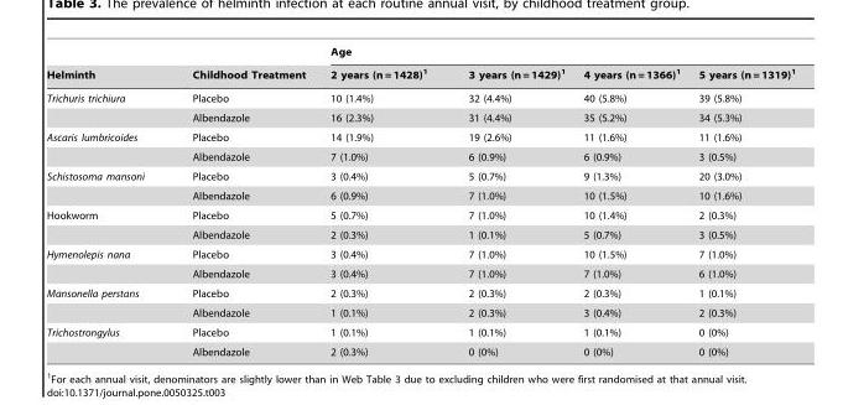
<table><thead><tr><td rowspan="2">Helminth</td><td rowspan="2">Childhood Treatment</td><td colspan="4">Age</td></tr><tr><td>2 years (n = 1428)<sup>1</sup></td><td>3 years (n = 1429)<sup>1</sup></td><td>4 years (n = 1366)<sup>1</sup></td><td>5 years (n = 1319)<sup>1</sup></td></tr></thead><tbody><tr><td rowspan="2">Trichuris trichiura</td><td>Placebo</td><td>10 (1.4%)</td><td>32 (4.4%)</td><td>40 (5.8%)</td><td>39 (5.8%)</td></tr><tr><td>Albendazole</td><td>16 (2.3%)</td><td>31 (4.4%)</td><td>35 (5.2%)</td><td>34 (5.3%)</td></tr><tr><td rowspan="2">Ascaris lumbricoides</td><td>Placebo</td><td>14 (1.9%)</td><td>19 (2.6%)</td><td>11 (1.6%)</td><td>11 (1.6%)</td></tr><tr><td>Albendazole</td><td>7 (1.0%)</td><td>6 (0.9%)</td><td>6 (0.9%)</td><td>3 (0.5%)</td></tr><tr><td rowspan="2">Schistosoma mansoni</td><td>Placebo</td><td>3 (0.4%)</td><td>5 (0.7%)</td><td>9 (1.3%)</td><td>20 (3.0%)</td></tr><tr><td>Albendazole</td><td>6 (0.9%)</td><td>7 (1.0%)</td><td>10 (1.5%)</td><td>10 (1.6%)</td></tr><tr><td rowspan="2">Hookworm</td><td>Placebo</td><td>5 (0.7%)</td><td>7 (1.0%)</td><td>10 (1.4%)</td><td>2 (0.3%)</td></tr><tr><td>Albendazole</td><td>2 (0.3%)</td><td>1 (0.1%)</td><td>5 (0.7%)</td><td>3 (0.5%)</td></tr><tr><td rowspan="2">Hymenolepis nana</td><td>Placebo</td><td>3 (0.4%)</td><td>7 (1.0%)</td><td>10 (1.5%)</td><td>7 (1.0%)</td></tr><tr><td>Albendazole</td><td>3 (0.4%)</td><td>7 (1.0%)</td><td>7 (1.0%)</td><td>6 (1.0%)</td></tr><tr><td rowspan="2">Mansonella perstans</td><td>Placebo</td><td>2 (0.3%)</td><td>2 (0.3%)</td><td>2 (0.3%)</td><td>1 (0.1%)</td></tr><tr><td>Albendazole</td><td>1 (0.1%)</td><td>2 (0.3%)</td><td>3 (0.4%)</td><td>2 (0.3%)</td></tr><tr><td rowspan="2">Trichostrongylus</td><td>Placebo</td><td>1 (0.1%)</td><td>1 (0.1%)</td><td>1 (0.1%)</td><td>0 (0%)</td></tr><tr><td>Albendazole</td><td>2 (0.3%)</td><td>0 (0%)</td><td>0 (0%)</td><td>0 (0%)</td></tr></tbody></table>